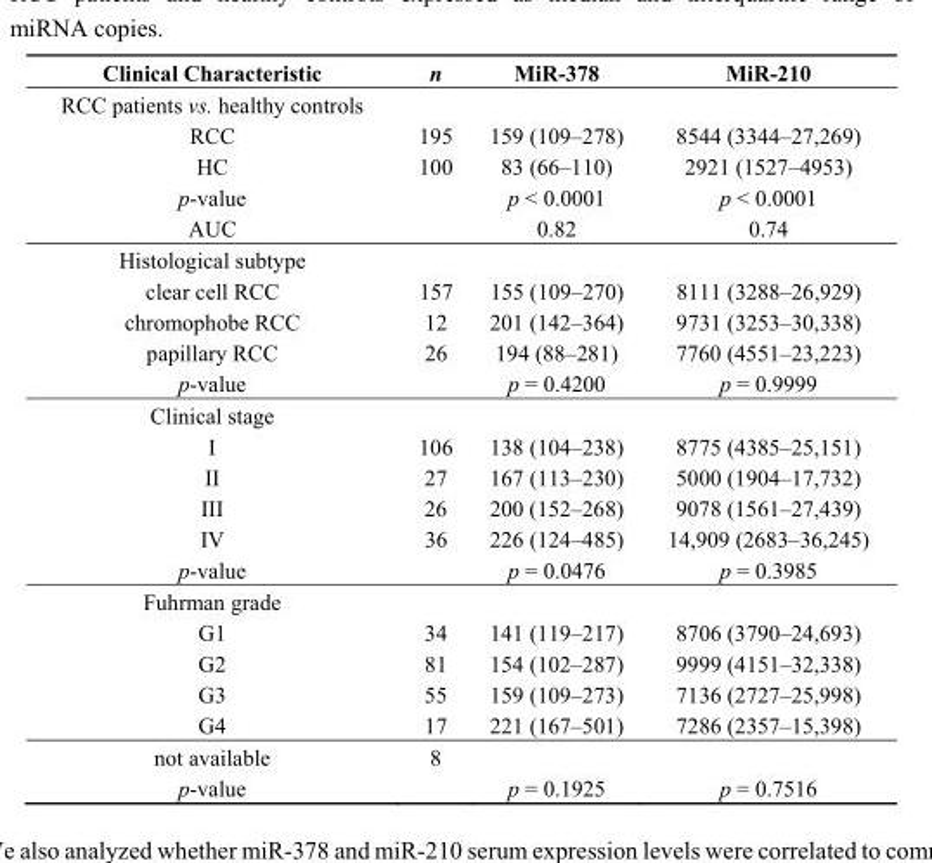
<table><thead><tr><td>Clinical Characteristic</td><td>n</td><td>MiR-378</td><td>MiR-210</td></tr></thead><tbody><tr><td colspan="4">RCC patients vs. healthy controls</td></tr><tr><td>RCC</td><td>195</td><td>159 (109–278)</td><td>8544 (3344–27,269)</td></tr><tr><td>HC</td><td>100</td><td>83 (66–110)</td><td>2921 (1527–4953)</td></tr><tr><td>p-value</td><td></td><td>p &lt; 0.0001</td><td>p &lt; 0.0001</td></tr><tr><td>AUC</td><td></td><td>0.82</td><td>0.74</td></tr><tr><td colspan="4">Histological subtype</td></tr><tr><td>clear cell RCC</td><td>157</td><td>155 (109–270)</td><td>8111 (3288–26,929)</td></tr><tr><td>chromophobe RCC</td><td>12</td><td>201 (142–364)</td><td>9731 (3253–30,338)</td></tr><tr><td>papillary RCC</td><td>26</td><td>194 (88–281)</td><td>7760 (4551–23,223)</td></tr><tr><td>p-value</td><td></td><td>p = 0.4200</td><td>p = 0.9999</td></tr><tr><td colspan="4">Clinical stage</td></tr><tr><td>I</td><td>106</td><td>138 (104–238)</td><td>8775 (4385–25,151)</td></tr><tr><td>II</td><td>27</td><td>167 (113–230)</td><td>5000 (1904–17,732)</td></tr><tr><td>III</td><td>26</td><td>200 (152–268)</td><td>9078 (1561–27,439)</td></tr><tr><td>IV</td><td>36</td><td>226 (124–485)</td><td>14,909 (2683–36,245)</td></tr><tr><td>p-value</td><td></td><td>p = 0.0476</td><td>p = 0.3985</td></tr><tr><td colspan="4">Fuhrman grade</td></tr><tr><td>G1</td><td>34</td><td>141 (119–217)</td><td>8706 (3790–24,693)</td></tr><tr><td>G2</td><td>81</td><td>154 (102–287)</td><td>9999 (4151–32,338)</td></tr><tr><td>G3</td><td>55</td><td>159 (109–273)</td><td>7136 (2727–25,998)</td></tr><tr><td>G4</td><td>17</td><td>221 (167–501)</td><td>7286 (2357–15,398)</td></tr><tr><td>not available</td><td>8</td><td></td><td></td></tr><tr><td>p-value</td><td></td><td>p = 0.1925</td><td>p = 0.7516</td></tr></tbody></table>